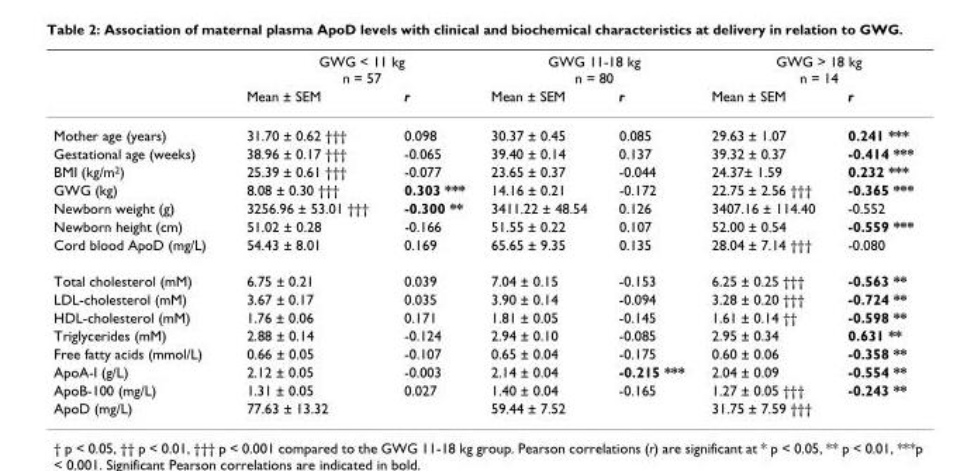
<table><thead><tr><td rowspan="2"></td><td colspan="2">GWG &lt; 11 kg n = 57</td><td colspan="2">GWG 11-18 kg n = 80</td><td colspan="2">GWG &gt; 18 kg n = 14</td></tr><tr><td>Mean ± SEM</td><td>r</td><td>Mean ± SEM</td><td>r</td><td>Mean ± SEM</td><td>r</td></tr></thead><tbody><tr><td>Mother age (years)</td><td>31.70 ± 0.62 †††</td><td>0.098</td><td>30.37 ± 0.45</td><td>0.085</td><td>29.63 ± 1.07</td><td>0.241 ***</td></tr><tr><td>Gestational age (weeks)</td><td>38.96 ± 0.17 †††</td><td>-0.065</td><td>39.40 ± 0.14</td><td>0.137</td><td>39.32 ± 0.37</td><td>-0.414 ***</td></tr><tr><td>BMI (kg/m<sup>2</sup>)</td><td>25.39 ± 0.61 †††</td><td>-0.077</td><td>23.65 ± 0.37</td><td>-0.044</td><td>24.37± 1.59</td><td>0.232 ***</td></tr><tr><td>GWG (kg)</td><td>8.08 ± 0.30 †††</td><td>0.303 ***</td><td>14.16 ± 0.21</td><td>-0.172</td><td>22.75 ± 2.56 †††</td><td>-0.365 ***</td></tr><tr><td>Newborn weight (g)</td><td>3256.96 ± 53.01 †††</td><td>-0.300 **</td><td>3411.22 ± 48.54</td><td>0.126</td><td>3407.16 ± 114.40</td><td>-0.552</td></tr><tr><td>Newborn height (cm)</td><td>51.02 ± 0.28</td><td>-0.166</td><td>51.55 ± 0.22</td><td>0.107</td><td>52.00 ± 0.54</td><td>-0.559 ***</td></tr><tr><td>Cord blood ApoD (mg/L)</td><td>54.43 ± 8.01</td><td>0.169</td><td>65.65 ± 9.35</td><td>0.135</td><td>28.04 ± 7.14 †††</td><td>-0.080</td></tr><tr><td>Total cholesterol (mM)</td><td>6.75 ± 0.21</td><td>0.039</td><td>7.04 ± 0.15</td><td>-0.153</td><td>6.25 ± 0.25 †††</td><td>-0.563 **</td></tr><tr><td>LDL-cholesterol (mM)</td><td>3.67 ± 0.17</td><td>0.035</td><td>3.90 ± 0.14</td><td>-0.094</td><td>3.28 ± 0.20 †††</td><td>-0.724 **</td></tr><tr><td>HDL-cholesterol (mM)</td><td>1.76 ± 0.06</td><td>0.171</td><td>1.81 ± 0.05</td><td>-0.145</td><td>1.61 ± 0.14 ††</td><td>-0.598 **</td></tr><tr><td>Triglycerides (mM)</td><td>2.88 ± 0.14</td><td>-0.124</td><td>2.94 ± 0.10</td><td>-0.085</td><td>2.95 ± 0.34</td><td>0.631 **</td></tr><tr><td>Free fatty acids (mmol/L)</td><td>0.66 ± 0.05</td><td>-0.107</td><td>0.65 ± 0.04</td><td>-0.175</td><td>0.60 ± 0.06</td><td>-0.358 **</td></tr><tr><td>ApoA-I (g/L)</td><td>2.12 ± 0.05</td><td>-0.003</td><td>2.14 ± 0.04</td><td>-0.215 ***</td><td>2.04 ± 0.09</td><td>-0.554 **</td></tr><tr><td>ApoB-100 (mg/L)</td><td>1.31 ± 0.05</td><td>0.027</td><td>1.40 ± 0.04</td><td>-0.165</td><td>1.27 ± 0.05 †††</td><td>-0.243 **</td></tr><tr><td>ApoD (mg/L)</td><td>77.63 ± 13.32</td><td></td><td>59.44 ± 7.52</td><td></td><td>31.75 ± 7.59 †††</td><td></td></tr></tbody></table>